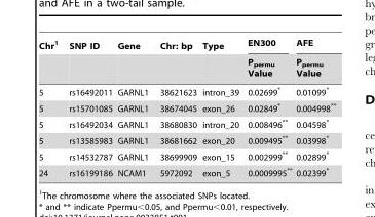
<table><thead><tr><td rowspan="2">Chr<sup>1</sup></td><td rowspan="2">SNP ID</td><td rowspan="2">Gene</td><td rowspan="2">Chr: bp</td><td rowspan="2">Type</td><td rowspan="2">EN300 P<sub>permu</sub> Value</td><td rowspan="2">AFE P<sub>permu</sub> Value</td></tr><tr></tr></thead><tbody><tr><td>5</td><td>rs16492011</td><td>GARNL1</td><td>38621623</td><td>intron_39</td><td>0.02699*</td><td>0.01099*</td></tr><tr><td>5</td><td>rs15701085</td><td>GARNL1</td><td>38674045</td><td>exon_26</td><td>0.02849*</td><td>0.004998**</td></tr><tr><td>5</td><td>rs16492034</td><td>GARNL1</td><td>38680830</td><td>intron_20</td><td>0.008496**</td><td>0.04598*</td></tr><tr><td>5</td><td>rs13585983</td><td>GARNL1</td><td>38681662</td><td>exon_20</td><td>0.009495**</td><td>0.03998*</td></tr><tr><td>5</td><td>rs14532787</td><td>GARNL1</td><td>38699909</td><td>exon_15</td><td>0.002999**</td><td>0.02899*</td></tr><tr><td>24</td><td>rs16199186</td><td>NCAM1</td><td>5972092</td><td>exon_5</td><td>0.0009995**</td><td>0.02399*</td></tr></tbody></table>